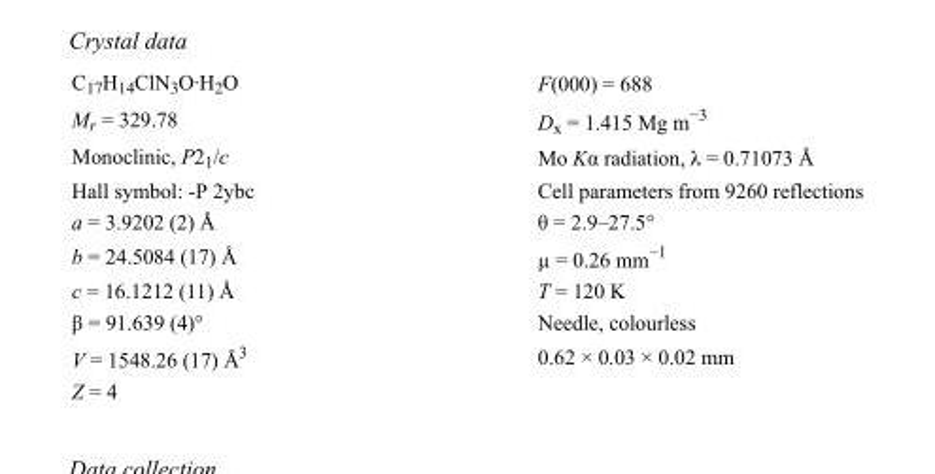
<table><tbody><tr><td>C<sub>17</sub>H<sub>14</sub>ClN<sub>3</sub>O·H<sub>2</sub>O</td><td>F(000) = 688</td></tr><tr><td>M<sub>r</sub> = 329.78</td><td>D<sub>x</sub> = 1.415 Mg m<sup>−3</sup></td></tr><tr><td>Monoclinic, P2<sub>1</sub>/c</td><td>Mo Kα radiation, λ = 0.71073 Å</td></tr><tr><td>Hall symbol: -P 2ybc</td><td>Cell parameters from 9260 reflections</td></tr><tr><td>a = 3.9202 (2) Å</td><td>θ = 2.9–27.5°</td></tr><tr><td>b = 24.5084 (17) Å</td><td>µ = 0.26 mm<sup>−1</sup></td></tr><tr><td>c = 16.1212 (11) Å</td><td>T = 120 K</td></tr><tr><td>β = 91.639 (4)°</td><td>Needle, colourless</td></tr><tr><td>V = 1548.26 (17) Å<sup>3</sup></td><td>0.62 × 0.03 × 0.02 mm</td></tr><tr><td>Z = 4</td><td></td></tr></tbody></table>